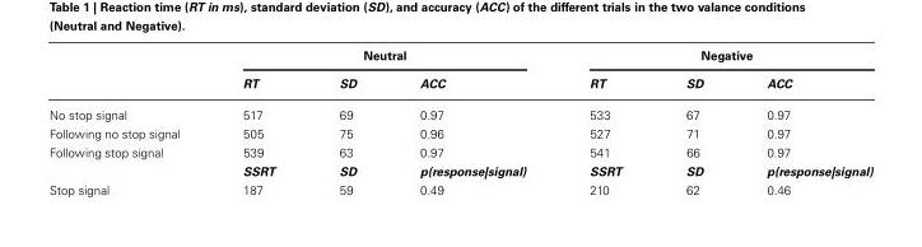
<table><thead><tr><td rowspan="2"></td><td colspan="3">Neutral</td><td colspan="3">Negative</td></tr><tr><td>RT</td><td>SD</td><td>ACC</td><td>RT</td><td>SD</td><td>ACC</td></tr></thead><tbody><tr><td>No stop signal</td><td>517</td><td>69</td><td>0.97</td><td>533</td><td>67</td><td>0.97</td></tr><tr><td>Following no stop signal</td><td>505</td><td>75</td><td>0.96</td><td>527</td><td>71</td><td>0.97</td></tr><tr><td rowspan="2">Following stop signal</td><td>539</td><td>63</td><td>0.97</td><td>541</td><td>66</td><td>0.97</td></tr><tr><td>SSRT</td><td>SD</td><td>p(response|signal)</td><td>SSRT</td><td>SD</td><td>p(response|signal)</td></tr><tr><td>Stop signal</td><td>187</td><td>59</td><td>0.49</td><td>210</td><td>62</td><td>0.46</td></tr></tbody></table>